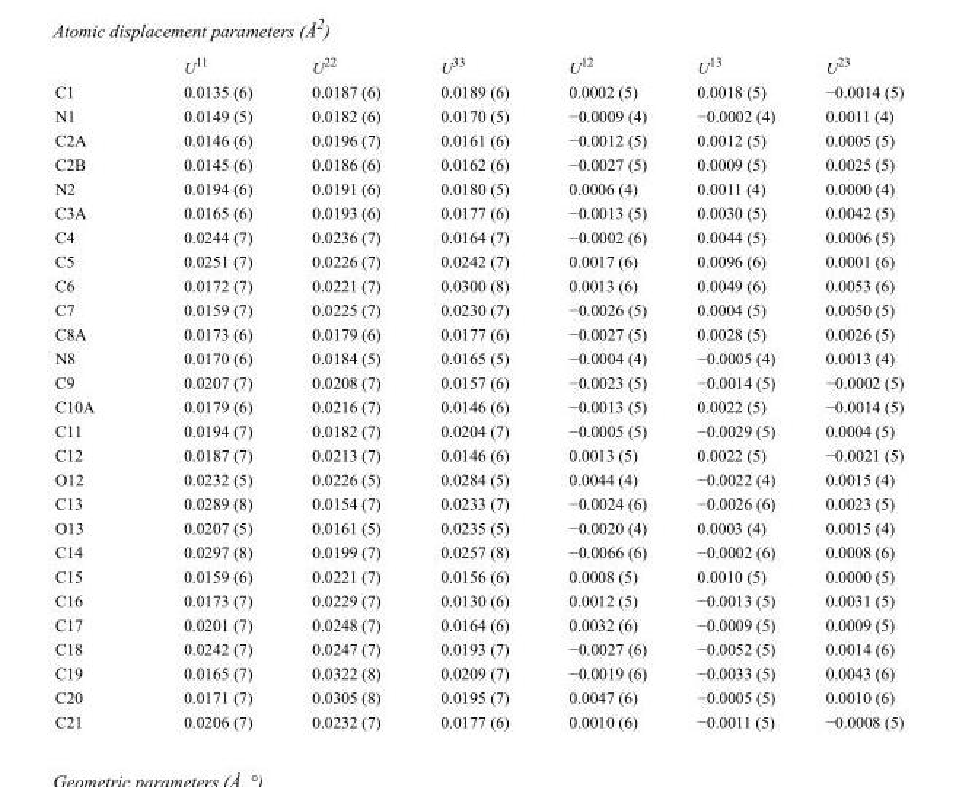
<table><thead><tr><td></td><td>U<sup>11</sup></td><td>U<sup>22</sup></td><td>U<sup>33</sup></td><td>U<sup>12</sup></td><td>U<sup>13</sup></td><td>U<sup>23</sup></td></tr></thead><tbody><tr><td>C1</td><td>0.0135 (6)</td><td>0.0187 (6)</td><td>0.0189 (6)</td><td>0.0002 (5)</td><td>0.0018 (5)</td><td>−0.0014 (5)</td></tr><tr><td>N1</td><td>0.0149 (5)</td><td>0.0182 (6)</td><td>0.0170 (5)</td><td>−0.0009 (4)</td><td>−0.0002 (4)</td><td>0.0011 (4)</td></tr><tr><td>C2A</td><td>0.0146 (6)</td><td>0.0196 (7)</td><td>0.0161 (6)</td><td>−0.0012 (5)</td><td>0.0012 (5)</td><td>0.0005 (5)</td></tr><tr><td>C2B</td><td>0.0145 (6)</td><td>0.0186 (6)</td><td>0.0162 (6)</td><td>−0.0027 (5)</td><td>0.0009 (5)</td><td>0.0025 (5)</td></tr><tr><td>N2</td><td>0.0194 (6)</td><td>0.0191 (6)</td><td>0.0180 (5)</td><td>0.0006 (4)</td><td>0.0011 (4)</td><td>0.0000 (4)</td></tr><tr><td>C3A</td><td>0.0165 (6)</td><td>0.0193 (6)</td><td>0.0177 (6)</td><td>−0.0013 (5)</td><td>0.0030 (5)</td><td>0.0042 (5)</td></tr><tr><td>C4</td><td>0.0244 (7)</td><td>0.0236 (7)</td><td>0.0164 (7)</td><td>−0.0002 (6)</td><td>0.0044 (5)</td><td>0.0006 (5)</td></tr><tr><td>C5</td><td>0.0251 (7)</td><td>0.0226 (7)</td><td>0.0242 (7)</td><td>0.0017 (6)</td><td>0.0096 (6)</td><td>0.0001 (6)</td></tr><tr><td>C6</td><td>0.0172 (7)</td><td>0.0221 (7)</td><td>0.0300 (8)</td><td>0.0013 (6)</td><td>0.0049 (6)</td><td>0.0053 (6)</td></tr><tr><td>C7</td><td>0.0159 (7)</td><td>0.0225 (7)</td><td>0.0230 (7)</td><td>−0.0026 (5)</td><td>0.0004 (5)</td><td>0.0050 (5)</td></tr><tr><td>C8A</td><td>0.0173 (6)</td><td>0.0179 (6)</td><td>0.0177 (6)</td><td>−0.0027 (5)</td><td>0.0028 (5)</td><td>0.0026 (5)</td></tr><tr><td>N8</td><td>0.0170 (6)</td><td>0.0184 (5)</td><td>0.0165 (5)</td><td>−0.0004 (4)</td><td>−0.0005 (4)</td><td>0.0013 (4)</td></tr><tr><td>C9</td><td>0.0207 (7)</td><td>0.0208 (7)</td><td>0.0157 (6)</td><td>−0.0023 (5)</td><td>−0.0014 (5)</td><td>−0.0002 (5)</td></tr><tr><td>C10A</td><td>0.0179 (6)</td><td>0.0216 (7)</td><td>0.0146 (6)</td><td>−0.0013 (5)</td><td>0.0022 (5)</td><td>−0.0014 (5)</td></tr><tr><td>C11</td><td>0.0194 (7)</td><td>0.0182 (7)</td><td>0.0204 (7)</td><td>−0.0005 (5)</td><td>−0.0029 (5)</td><td>0.0004 (5)</td></tr><tr><td>C12</td><td>0.0187 (7)</td><td>0.0213 (7)</td><td>0.0146 (6)</td><td>0.0013 (5)</td><td>0.0022 (5)</td><td>−0.0021 (5)</td></tr><tr><td>O12</td><td>0.0232 (5)</td><td>0.0226 (5)</td><td>0.0284 (5)</td><td>0.0044 (4)</td><td>−0.0022 (4)</td><td>0.0015 (4)</td></tr><tr><td>C13</td><td>0.0289 (8)</td><td>0.0154 (7)</td><td>0.0233 (7)</td><td>−0.0024 (6)</td><td>−0.0026 (6)</td><td>0.0023 (5)</td></tr><tr><td>O13</td><td>0.0207 (5)</td><td>0.0161 (5)</td><td>0.0235 (5)</td><td>−0.0020 (4)</td><td>0.0003 (4)</td><td>0.0015 (4)</td></tr><tr><td>C14</td><td>0.0297 (8)</td><td>0.0199 (7)</td><td>0.0257 (8)</td><td>−0.0066 (6)</td><td>−0.0002 (6)</td><td>0.0008 (6)</td></tr><tr><td>C15</td><td>0.0159 (6)</td><td>0.0221 (7)</td><td>0.0156 (6)</td><td>0.0008 (5)</td><td>0.0010 (5)</td><td>0.0000 (5)</td></tr><tr><td>C16</td><td>0.0173 (7)</td><td>0.0229 (7)</td><td>0.0130 (6)</td><td>0.0012 (5)</td><td>−0.0013 (5)</td><td>0.0031 (5)</td></tr><tr><td>C17</td><td>0.0201 (7)</td><td>0.0248 (7)</td><td>0.0164 (6)</td><td>0.0032 (6)</td><td>−0.0009 (5)</td><td>0.0009 (5)</td></tr><tr><td>C18</td><td>0.0242 (7)</td><td>0.0247 (7)</td><td>0.0193 (7)</td><td>−0.0027 (6)</td><td>−0.0052 (5)</td><td>0.0014 (6)</td></tr><tr><td>C19</td><td>0.0165 (7)</td><td>0.0322 (8)</td><td>0.0209 (7)</td><td>−0.0019 (6)</td><td>−0.0033 (5)</td><td>0.0043 (6)</td></tr><tr><td>C20</td><td>0.0171 (7)</td><td>0.0305 (8)</td><td>0.0195 (7)</td><td>0.0047 (6)</td><td>−0.0005 (5)</td><td>0.0010 (6)</td></tr><tr><td>C21</td><td>0.0206 (7)</td><td>0.0232 (7)</td><td>0.0177 (6)</td><td>0.0010 (6)</td><td>−0.0011 (5)</td><td>−0.0008 (5)</td></tr></tbody></table>